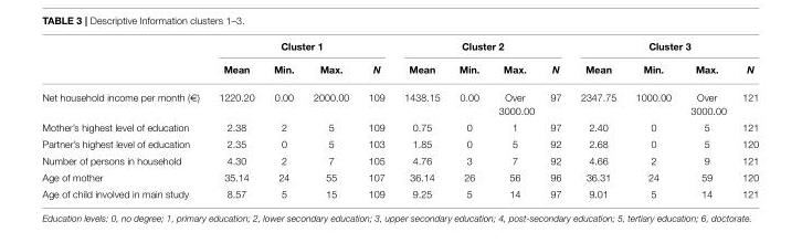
<table><thead><tr><td rowspan="2"></td><td colspan="4">Cluster 1</td><td colspan="4">Cluster 2</td><td colspan="4">Cluster 3</td></tr><tr><td>Mean</td><td>Min.</td><td>Max.</td><td>N</td><td>Mean</td><td>Min.</td><td>Max.</td><td>N</td><td>Mean</td><td>Min.</td><td>Max.</td><td>N</td></tr></thead><tbody><tr><td>Net household income per month (€)</td><td>1220.20</td><td>0.00</td><td>2000.00</td><td>109</td><td>1438.15</td><td>0.00</td><td>Over 3000.00</td><td>97</td><td>2347.75</td><td>1000.00</td><td>Over 3000.00</td><td>121</td></tr><tr><td>Mother’s highest level of education</td><td>2.38</td><td>2</td><td>5</td><td>109</td><td>0.75</td><td>0</td><td>1</td><td>97</td><td>2.40</td><td>0</td><td>5</td><td>121</td></tr><tr><td>Partner’s highest level of education</td><td>2.35</td><td>0</td><td>5</td><td>103</td><td>1.85</td><td>0</td><td>5</td><td>92</td><td>2.68</td><td>0</td><td>5</td><td>120</td></tr><tr><td>Number of persons in household</td><td>4.30</td><td>2</td><td>7</td><td>105</td><td>4.76</td><td>3</td><td>7</td><td>92</td><td>4.66</td><td>2</td><td>9</td><td>121</td></tr><tr><td>Age of mother</td><td>35.14</td><td>24</td><td>55</td><td>107</td><td>36.14</td><td>26</td><td>56</td><td>96</td><td>36.31</td><td>24</td><td>59</td><td>120</td></tr><tr><td>Age of child involved in main study</td><td>8.57</td><td>5</td><td>15</td><td>109</td><td>9.25</td><td>5</td><td>14</td><td>97</td><td>9.01</td><td>5</td><td>14</td><td>121</td></tr></tbody></table>